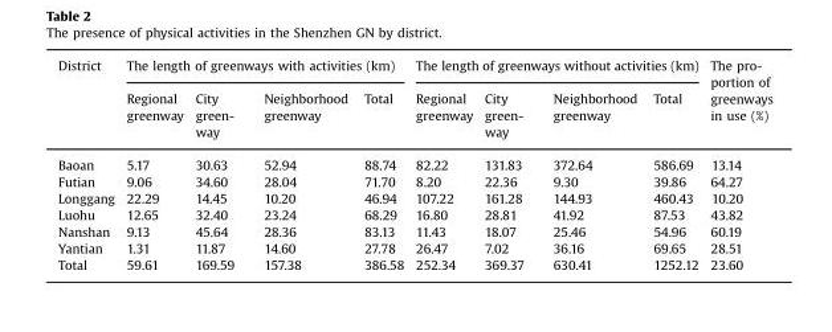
<table><thead><tr><td rowspan="2">District</td><td colspan="4">The length of greenways with activities (km)</td><td colspan="4">The length of greenways without activities (km)</td><td rowspan="2">The pro- portion of greenways in use (%)</td></tr><tr><td>Regional greenway</td><td>City green- way</td><td>Neighborhood greenway</td><td>Total</td><td>Regional greenway</td><td>City green- way</td><td>Neighborhood greenway</td><td>Total</td></tr></thead><tbody><tr><td>Baoan</td><td>5.17</td><td>30.63</td><td>52.94</td><td>88.74</td><td>82.22</td><td>131.83</td><td>372.64</td><td>586.69</td><td>13.14</td></tr><tr><td>Futian</td><td>9.06</td><td>34.60</td><td>28.04</td><td>71.70</td><td>8.20</td><td>22.36</td><td>9.30</td><td>39.86</td><td>64.27</td></tr><tr><td>Longgang</td><td>22.29</td><td>14.45</td><td>10.20</td><td>46.94</td><td>107.22</td><td>161.28</td><td>144.93</td><td>460.43</td><td>10.20</td></tr><tr><td>Luohu</td><td>12.65</td><td>32.40</td><td>23.24</td><td>68.29</td><td>16.80</td><td>28.81</td><td>41.92</td><td>87.53</td><td>43.82</td></tr><tr><td>Nanshan</td><td>9.13</td><td>45.64</td><td>28.36</td><td>83.13</td><td>11.43</td><td>18.07</td><td>25.46</td><td>54.96</td><td>60.19</td></tr><tr><td>Yantian</td><td>1.31</td><td>11.87</td><td>14.60</td><td>27.78</td><td>26.47</td><td>7.02</td><td>36.16</td><td>69.65</td><td>28.51</td></tr><tr><td>Total</td><td>59.61</td><td>169.59</td><td>157.38</td><td>386.58</td><td>252.34</td><td>369.37</td><td>630.41</td><td>1252.12</td><td>23.60</td></tr></tbody></table>